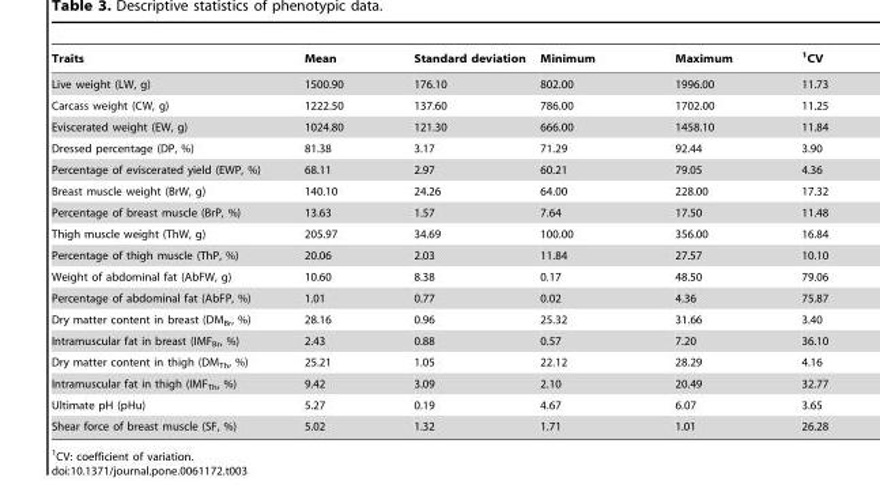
<table><thead><tr><td>Traits</td><td>Mean</td><td>Standard deviation</td><td>Minimum</td><td>Maximum</td><td>1CV</td></tr></thead><tbody><tr><td>Live weight (LW, g)</td><td>1500.90</td><td>176.10</td><td>802.00</td><td>1996.00</td><td>11.73</td></tr><tr><td>Carcass weight (CW, g)</td><td>1222.50</td><td>137.60</td><td>786.00</td><td>1702.00</td><td>11.25</td></tr><tr><td>Eviscerated weight (EW, g)</td><td>1024.80</td><td>121.30</td><td>666.00</td><td>1458.10</td><td>11.84</td></tr><tr><td>Dressed percentage (DP, %)</td><td>81.38</td><td>3.17</td><td>71.29</td><td>92.44</td><td>3.90</td></tr><tr><td>Percentage of eviscerated yield (EWP, %)</td><td>68.11</td><td>2.97</td><td>60.21</td><td>79.05</td><td>4.36</td></tr><tr><td>Breast muscle weight (BrW, g)</td><td>140.10</td><td>24.26</td><td>64.00</td><td>228.00</td><td>17.32</td></tr><tr><td>Percentage of breast muscle (BrP, %)</td><td>13.63</td><td>1.57</td><td>7.64</td><td>17.50</td><td>11.48</td></tr><tr><td>Thigh muscle weight (ThW, g)</td><td>205.97</td><td>34.69</td><td>100.00</td><td>356.00</td><td>16.84</td></tr><tr><td>Percentage of thigh muscle (ThP, %)</td><td>20.06</td><td>2.03</td><td>11.84</td><td>27.57</td><td>10.10</td></tr><tr><td>Weight of abdominal fat (AbFW, g)</td><td>10.60</td><td>8.38</td><td>0.17</td><td>48.50</td><td>79.06</td></tr><tr><td>Percentage of abdominal fat (AbFP, %)</td><td>1.01</td><td>0.77</td><td>0.02</td><td>4.36</td><td>75.87</td></tr><tr><td>Dry matter content in breast (DM<sub>Br</sub>, %)</td><td>28.16</td><td>0.96</td><td>25.32</td><td>31.66</td><td>3.40</td></tr><tr><td>Intramuscular fat in breast (IMF<sub>Br</sub>, %)</td><td>2.43</td><td>0.88</td><td>0.57</td><td>7.20</td><td>36.10</td></tr><tr><td>Dry matter content in thigh (DM<sub>Th</sub>, %)</td><td>25.21</td><td>1.05</td><td>22.12</td><td>28.29</td><td>4.16</td></tr><tr><td>Intramuscular fat in thigh (IMF<sub>Th</sub>, %)</td><td>9.42</td><td>3.09</td><td>2.10</td><td>20.49</td><td>32.77</td></tr><tr><td>Ultimate pH (pHu)</td><td>5.27</td><td>0.19</td><td>4.67</td><td>6.07</td><td>3.65</td></tr><tr><td>Shear force of breast muscle (SF, %)</td><td>5.02</td><td>1.32</td><td>1.71</td><td>1.01</td><td>26.28</td></tr></tbody></table>